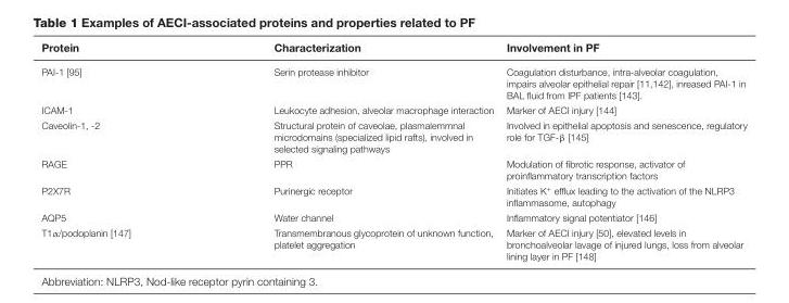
<table><thead><tr><td>Protein</td><td>Characterization</td><td>Involvement in PF</td></tr></thead><tbody><tr><td>PAI-1 [95]</td><td>Serin protease inhibitor</td><td>Coagulation disturbance, intra-alveolar coagulation, impairs alveolar epithelial repair [11,142], inreased PAI-1 in BAL fluid from IPF patients [143].</td></tr><tr><td>ICAM-1</td><td>Leukocyte adhesion, alveolar macrophage interaction</td><td>Marker of AECI injury [144]</td></tr><tr><td>Caveolin-1, -2</td><td>Structural protein of caveolae, plasmalemmnal microdomains (specialized lipid rafts), involved in selected signaling pathways</td><td>Involved in epithelial apoptosis and senescence, regulatory role for TGF-β [145]</td></tr><tr><td>RAGE</td><td>PPR</td><td>Modulation of fibrotic response, activator of proinflammatory transcription factors</td></tr><tr><td>P2X7R</td><td>Purinergic receptor</td><td>Initiates K<sup>+</sup> efflux leading to the activation of the NLRP3 inflammasome, autophagy</td></tr><tr><td>AQP5</td><td>Water channel</td><td>Inflammatory signal potentiator [146]</td></tr><tr><td>T1α/podoplanin [147]</td><td>Transmembranous glycoprotein of unknown function, platelet aggregation</td><td>Marker of AECI injury [50], elevated levels in bronchoalveolar lavage of injured lungs, loss from alveolar lining layer in PF [148]</td></tr></tbody></table>